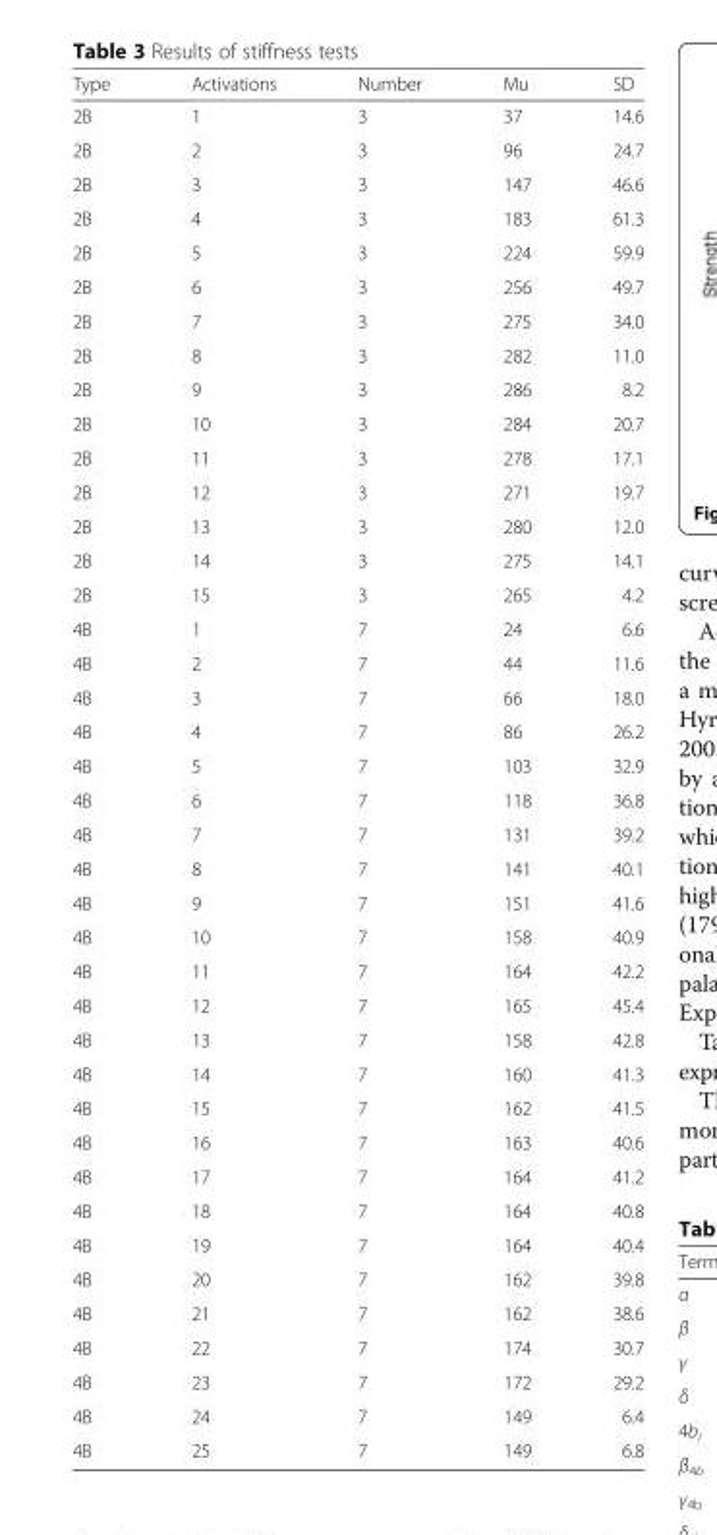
<table><thead><tr><td>Type</td><td>Activations</td><td>Number</td><td>Mu</td><td>SD</td></tr></thead><tbody><tr><td>2B</td><td>1</td><td>3</td><td>37</td><td>14.6</td></tr><tr><td>2B</td><td>2</td><td>3</td><td>96</td><td>24.7</td></tr><tr><td>2B</td><td>3</td><td>3</td><td>147</td><td>46.6</td></tr><tr><td>2B</td><td>4</td><td>3</td><td>183</td><td>61.3</td></tr><tr><td>2B</td><td>5</td><td>3</td><td>224</td><td>59.9</td></tr><tr><td>2B</td><td>6</td><td>3</td><td>256</td><td>49.7</td></tr><tr><td>2B</td><td>7</td><td>3</td><td>275</td><td>34.0</td></tr><tr><td>2B</td><td>8</td><td>3</td><td>282</td><td>11.0</td></tr><tr><td>2B</td><td>9</td><td>3</td><td>286</td><td>8.2</td></tr><tr><td>2B</td><td>10</td><td>3</td><td>284</td><td>20.7</td></tr><tr><td>2B</td><td>11</td><td>3</td><td>278</td><td>17.1</td></tr><tr><td>2B</td><td>12</td><td>3</td><td>271</td><td>19.7</td></tr><tr><td>2B</td><td>13</td><td>3</td><td>280</td><td>12.0</td></tr><tr><td>2B</td><td>14</td><td>3</td><td>275</td><td>14.1</td></tr><tr><td>2B</td><td>15</td><td>3</td><td>265</td><td>4.2</td></tr><tr><td>4B</td><td>1</td><td>7</td><td>24</td><td>6.6</td></tr><tr><td>4B</td><td>2</td><td>7</td><td>44</td><td>11.6</td></tr><tr><td>4B</td><td>3</td><td>7</td><td>66</td><td>18.0</td></tr><tr><td>4B</td><td>4</td><td>7</td><td>86</td><td>26.2</td></tr><tr><td>4B</td><td>5</td><td>7</td><td>103</td><td>32.9</td></tr><tr><td>4B</td><td>6</td><td>7</td><td>118</td><td>36.8</td></tr><tr><td>4B</td><td>7</td><td>7</td><td>131</td><td>39.2</td></tr><tr><td>4B</td><td>8</td><td>7</td><td>141</td><td>40.1</td></tr><tr><td>4B</td><td>9</td><td>7</td><td>151</td><td>41.6</td></tr><tr><td>4B</td><td>10</td><td>7</td><td>158</td><td>40.9</td></tr><tr><td>4B</td><td>11</td><td>7</td><td>164</td><td>42.2</td></tr><tr><td>4B</td><td>12</td><td>7</td><td>165</td><td>45.4</td></tr><tr><td>4B</td><td>13</td><td>7</td><td>158</td><td>42.8</td></tr><tr><td>4B</td><td>14</td><td>7</td><td>160</td><td>41.3</td></tr><tr><td>4B</td><td>15</td><td>7</td><td>162</td><td>41.5</td></tr><tr><td>4B</td><td>16</td><td>7</td><td>163</td><td>40.6</td></tr><tr><td>4B</td><td>17</td><td>7</td><td>164</td><td>41.2</td></tr><tr><td>4B</td><td>18</td><td>7</td><td>164</td><td>40.8</td></tr><tr><td>4B</td><td>19</td><td>7</td><td>164</td><td>40.4</td></tr><tr><td>4B</td><td>20</td><td>7</td><td>162</td><td>39.8</td></tr><tr><td>4B</td><td>21</td><td>7</td><td>162</td><td>38.6</td></tr><tr><td>4B</td><td>22</td><td>7</td><td>174</td><td>30.7</td></tr><tr><td>4B</td><td>23</td><td>7</td><td>172</td><td>29.2</td></tr><tr><td>4B</td><td>24</td><td>7</td><td>149</td><td>6.4</td></tr><tr><td>4B</td><td>25</td><td>7</td><td>149</td><td>6.8</td></tr></tbody></table>